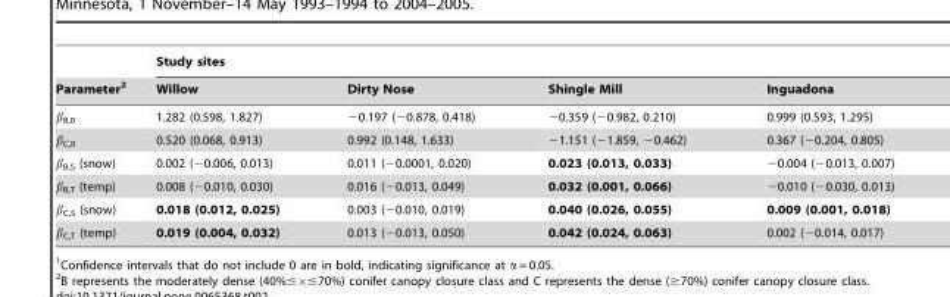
<table><thead><tr><td rowspan="2">Parameter<sup>2</sup></td><td colspan="4">Study sites</td></tr><tr><td>Willow</td><td>Dirty Nose</td><td>Shingle Mill</td><td>Inguadona</td></tr></thead><tbody><tr><td>β<sub>B,0</sub></td><td>1.282 (0.598, 1.827)</td><td>−0.197 (−0.878, 0.418)</td><td>−0.359 (−0.982, 0.210)</td><td>0.999 (0.593, 1.295)</td></tr><tr><td>β<sub>C,0</sub></td><td>0.520 (0.068, 0.913)</td><td>0.992 (0.148, 1.633)</td><td>−1.151 (−1.859, −0.462)</td><td>0.367 (−0.204, 0.805)</td></tr><tr><td>β<sub>B,S</sub> (snow)</td><td>0.002 (−0.006, 0.013)</td><td>0.011 (−0.0001, 0.020)</td><td>0.023 (0.013, 0.033)</td><td>−0.004 (−0.013, 0.007)</td></tr><tr><td>β<sub>B,T</sub> (temp)</td><td>0.008 (−0.010, 0.030)</td><td>0.016 (−0.013, 0.049)</td><td>0.032 (0.001, 0.066)</td><td>−0.010 (−0.030, 0.013)</td></tr><tr><td>β<sub>C,S</sub> (snow)</td><td>0.018 (0.012, 0.025)</td><td>0.003 (−0.010, 0.019)</td><td>0.040 (0.026, 0.055)</td><td>0.009 (0.001, 0.018)</td></tr><tr><td>β<sub>C,T</sub> (temp)</td><td>0.019 (0.004, 0.032)</td><td>0.013 (−0.013, 0.050)</td><td>0.042 (0.024, 0.063)</td><td>0.002 (−0.014, 0.017)</td></tr></tbody></table>